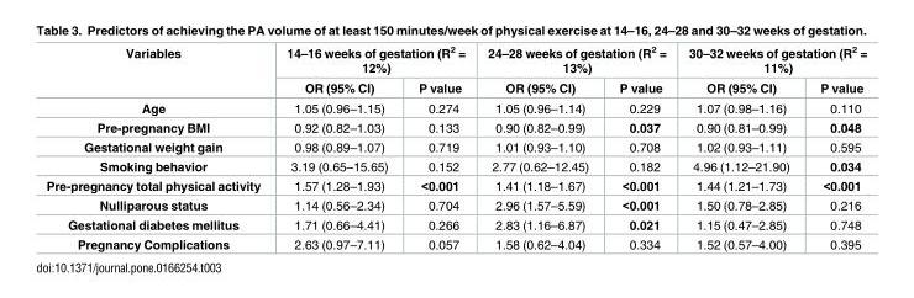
<table><thead><tr><td rowspan="2">Variables</td><td colspan="2">14–16 weeks of gestation (R<sup>2</sup> = 12%)</td><td colspan="2">24–28 weeks of gestation (R<sup>2</sup> = 13%)</td><td colspan="2">30–32 weeks of gestation (R<sup>2</sup> = 11%)</td></tr><tr><td>OR (95% CI)</td><td>P value</td><td>OR (95% CI)</td><td>P value</td><td>OR (95% CI)</td><td>P value</td></tr></thead><tbody><tr><td>Age</td><td>1.05 (0.96–1.15)</td><td>0.274</td><td>1.05 (0.96–1.14)</td><td>0.229</td><td>1.07 (0.98–1.16)</td><td>0.110</td></tr><tr><td>Pre-pregnancy BMI</td><td>0.92 (0.82–1.03)</td><td>0.133</td><td>0.90 (0.82–0.99)</td><td>0.037</td><td>0.90 (0.81–0.99)</td><td>0.048</td></tr><tr><td>Gestational weight gain</td><td>0.98 (0.89–1.07)</td><td>0.719</td><td>1.01 (0.93–1.10)</td><td>0.708</td><td>1.02 (0.93–1.11)</td><td>0.595</td></tr><tr><td>Smoking behavior</td><td>3.19 (0.65–15.65)</td><td>0.152</td><td>2.77 (0.62–12.45)</td><td>0.182</td><td>4.96 (1.12–21.90)</td><td>0.034</td></tr><tr><td>Pre-pregnancy total physical activity</td><td>1.57 (1.28–1.93)</td><td>&lt;0.001</td><td>1.41 (1.18–1.67)</td><td>&lt;0.001</td><td>1.44 (1.21–1.73)</td><td>&lt;0.001</td></tr><tr><td>Nulliparous status</td><td>1.14 (0.56–2.34)</td><td>0.704</td><td>2.96 (1.57–5.59)</td><td>&lt;0.001</td><td>1.50 (0.78–2.85)</td><td>0.216</td></tr><tr><td>Gestational diabetes mellitus</td><td>1.71 (0.66–4.41)</td><td>0.266</td><td>2.83 (1.16–6.87)</td><td>0.021</td><td>1.15 (0.47–2.85)</td><td>0.748</td></tr><tr><td>Pregnancy Complications</td><td>2.63 (0.97–7.11)</td><td>0.057</td><td>1.58 (0.62–4.04)</td><td>0.334</td><td>1.52 (0.57–4.00)</td><td>0.395</td></tr></tbody></table>